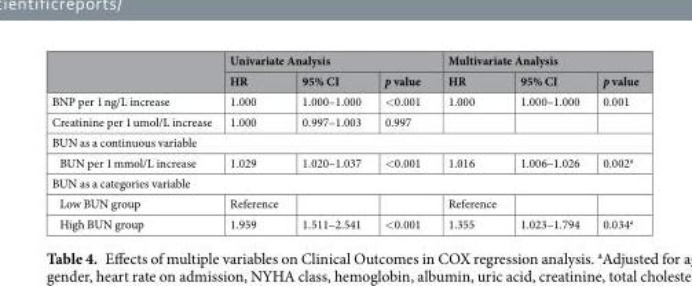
<table><thead><tr><td rowspan="2"></td><td colspan="3">Univariate Analysis</td><td colspan="3">Multivariate Analysis</td></tr><tr><td>HR</td><td>95% CI</td><td>p value</td><td>HR</td><td>95% CI</td><td>p value</td></tr></thead><tbody><tr><td>BNP per 1 ng/L increase</td><td>1.000</td><td>1.000–1.000</td><td>&lt;0.001</td><td>1.000</td><td>1.000–1.000</td><td>0.001</td></tr><tr><td>Creatinine per 1 umol/L increase</td><td>1.000</td><td>0.997–1.003</td><td>0.997</td><td></td><td></td><td></td></tr><tr><td colspan="7">BUN as a continuous variable</td></tr><tr><td>BUN per 1 mmol/L increase</td><td>1.029</td><td>1.020–1.037</td><td>&lt;0.001</td><td>1.016</td><td>1.006–1.026</td><td>0.002<sup>a</sup></td></tr><tr><td colspan="7">BUN as a categories variable</td></tr><tr><td>Low BUN group</td><td>Reference</td><td></td><td></td><td>Reference</td><td></td><td></td></tr><tr><td>High BUN group</td><td>1.959</td><td>1.511–2.541</td><td>&lt;0.001</td><td>1.355</td><td>1.023–1.794</td><td>0.034<sup>a</sup></td></tr></tbody></table>